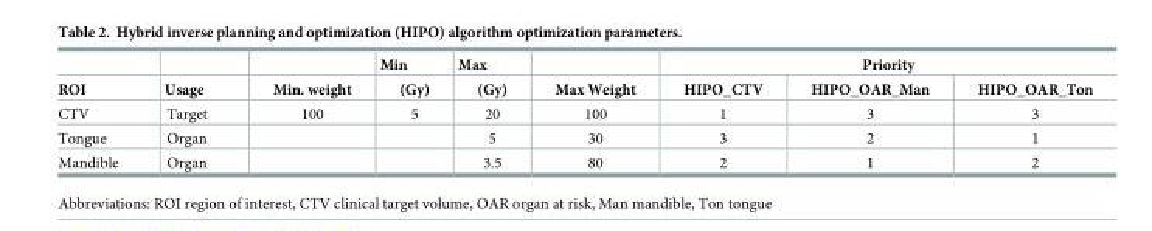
<table><thead><tr><td rowspan="2">ROI</td><td rowspan="2">Usage</td><td rowspan="2">Min. weight</td><td rowspan="2">Min (Gy)</td><td rowspan="2">Max (Gy)</td><td rowspan="2">Max Weight</td><td colspan="3">Priority</td></tr><tr><td>HIPO_CTV</td><td>HIPO_OAR_Man</td><td>HIPO_OAR_Ton</td></tr></thead><tbody><tr><td>CTV</td><td>Target</td><td>100</td><td>5</td><td>20</td><td>100</td><td>1</td><td>3</td><td>3</td></tr><tr><td>Tongue</td><td>Organ</td><td></td><td></td><td>5</td><td>30</td><td>3</td><td>2</td><td>1</td></tr><tr><td>Mandible</td><td>Organ</td><td></td><td></td><td>3.5</td><td>80</td><td>2</td><td>1</td><td>2</td></tr></tbody></table>